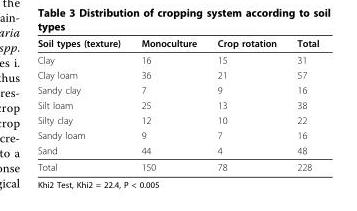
<table><thead><tr><td>Soil types (texture)</td><td>Monoculture</td><td>Crop rotation</td><td>Total</td></tr></thead><tbody><tr><td>Clay</td><td>16</td><td>15</td><td>31</td></tr><tr><td>Clay loam</td><td>36</td><td>21</td><td>57</td></tr><tr><td>Sandy clay</td><td>7</td><td>9</td><td>16</td></tr><tr><td>Silt loam</td><td>25</td><td>13</td><td>38</td></tr><tr><td>Silty clay</td><td>12</td><td>10</td><td>22</td></tr><tr><td>Sandy loam</td><td>9</td><td>7</td><td>16</td></tr><tr><td>Sand</td><td>44</td><td>4</td><td>48</td></tr><tr><td>Total</td><td>150</td><td>78</td><td>228</td></tr></tbody></table>